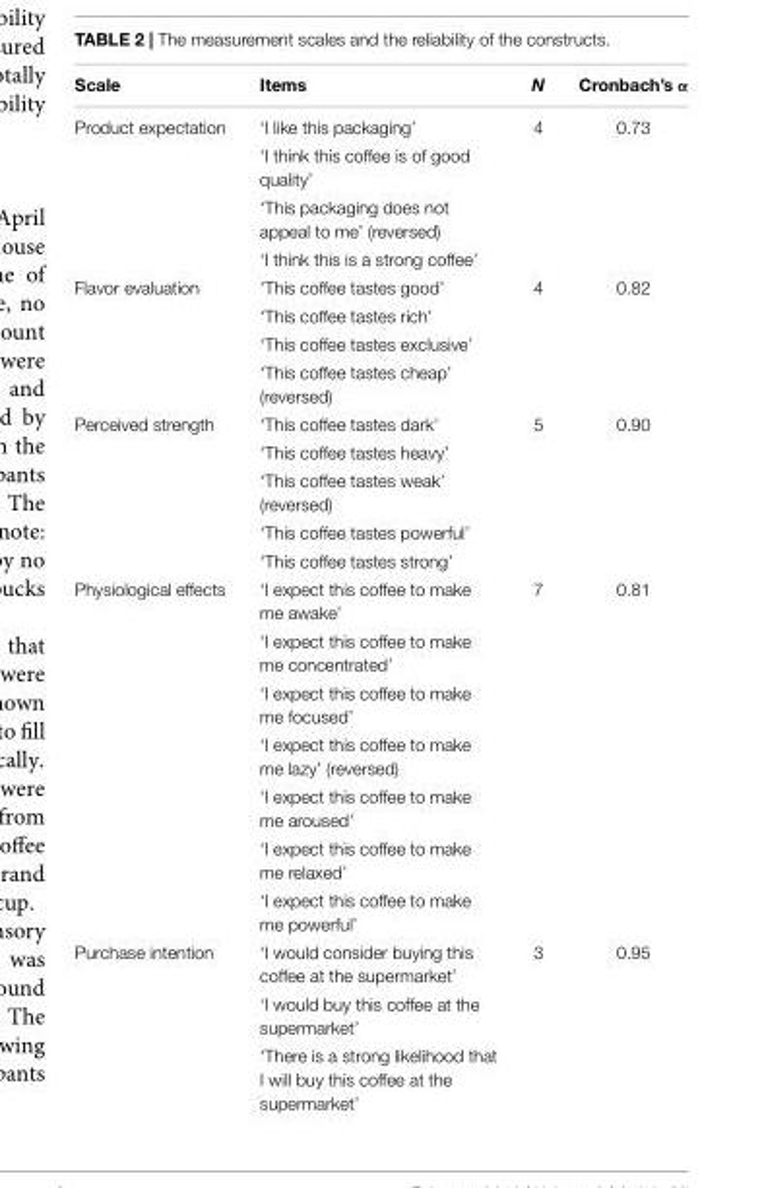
<table><thead><tr><td>Scale</td><td>Items</td><td>N</td><td>Cronbach’s α</td></tr></thead><tbody><tr><td rowspan="4">Product expectation</td><td>‘I like this packaging’</td><td>4</td><td>0.73</td></tr><tr><td>‘I think this coffee is of good quality’</td><td></td><td></td></tr><tr><td>‘This packaging does not appeal to me’ (reversed)</td><td></td><td></td></tr><tr><td>‘I think this is a strong coffee’</td><td></td><td></td></tr><tr><td rowspan="4">Flavor evaluation</td><td>‘This coffee tastes good’</td><td>4</td><td>0.82</td></tr><tr><td>‘This coffee tastes rich’</td><td></td><td></td></tr><tr><td>‘This coffee tastes exclusive’</td><td></td><td></td></tr><tr><td>‘This coffee tastes cheap’ (reversed)</td><td></td><td></td></tr><tr><td rowspan="5">Perceived strength</td><td>‘This coffee tastes dark’</td><td>5</td><td>0.90</td></tr><tr><td>‘This coffee tastes heavy’</td><td></td><td></td></tr><tr><td>‘This coffee tastes weak’ (reversed)</td><td></td><td></td></tr><tr><td>‘This coffee tastes powerful’</td><td></td><td></td></tr><tr><td>‘This coffee tastes strong’</td><td></td><td></td></tr><tr><td rowspan="7">Physiological effects</td><td>‘I expect this coffee to make me awake’</td><td>7</td><td>0.81</td></tr><tr><td>‘I expect this coffee to make me concentrated’</td><td></td><td></td></tr><tr><td>‘I expect this coffee to make me focused’</td><td></td><td></td></tr><tr><td>‘I expect this coffee to make me lazy’ (reversed)</td><td></td><td></td></tr><tr><td>‘I expect this coffee to make me aroused’</td><td></td><td></td></tr><tr><td>‘I expect this coffee to make me relaxed’</td><td></td><td></td></tr><tr><td>‘I expect this coffee to make me powerful’</td><td></td><td></td></tr><tr><td rowspan="3">Purchase intention</td><td>‘I would consider buying this coffee at the supermarket’</td><td>3</td><td>0.95</td></tr><tr><td>‘I would buy this coffee at the supermarket’</td><td></td><td></td></tr><tr><td>‘There is a strong likelihood that I will buy this coffee at the supermarket’</td><td></td><td></td></tr></tbody></table>